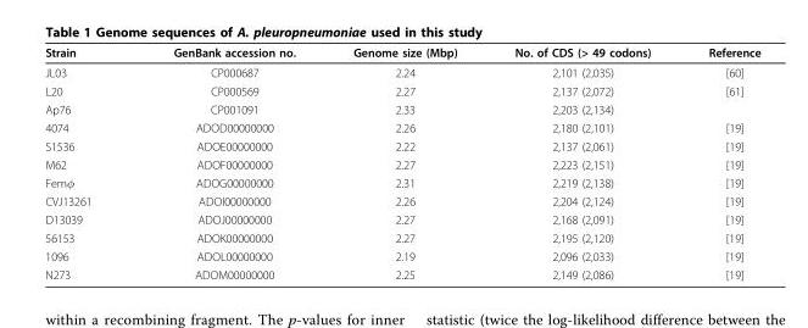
<table><thead><tr><td>Strain</td><td>GenBank accession no.</td><td>Genome size (Mbp)</td><td>No. of CDS (&gt; 49 codons)</td><td>Reference</td></tr></thead><tbody><tr><td>JL03</td><td>CP000687</td><td>2.24</td><td>2,101 (2,035)</td><td>[60]</td></tr><tr><td>L20</td><td>CP000569</td><td>2.27</td><td>2,137 (2,072)</td><td>[61]</td></tr><tr><td>Ap76</td><td>CP001091</td><td>2.33</td><td>2,203 (2,134)</td><td></td></tr><tr><td>4074</td><td>ADOD00000000</td><td>2.26</td><td>2,180 (2,101)</td><td>[19]</td></tr><tr><td>S1536</td><td>ADOE00000000</td><td>2.22</td><td>2,137 (2,061)</td><td>[19]</td></tr><tr><td>M62</td><td>ADOF00000000</td><td>2.27</td><td>2,223 (2,151)</td><td>[19]</td></tr><tr><td>Femφ</td><td>ADOG00000000</td><td>2.31</td><td>2,219 (2,138)</td><td>[19]</td></tr><tr><td>CVJ13261</td><td>ADOI00000000</td><td>2.26</td><td>2,204 (2,124)</td><td>[19]</td></tr><tr><td>D13039</td><td>ADOJ00000000</td><td>2.27</td><td>2,168 (2,091)</td><td>[19]</td></tr><tr><td>56153</td><td>ADOK00000000</td><td>2.27</td><td>2,195 (2,120)</td><td>[19]</td></tr><tr><td>1096</td><td>ADOL00000000</td><td>2.19</td><td>2,096 (2,033)</td><td>[19]</td></tr><tr><td>N273</td><td>ADOM00000000</td><td>2.25</td><td>2,149 (2,086)</td><td>[19]</td></tr></tbody></table>